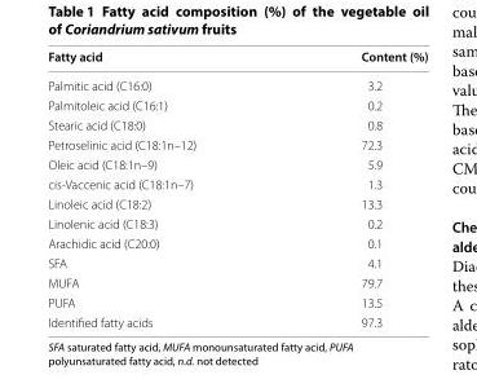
<table><thead><tr><td>Fatty acid</td><td>Content (%)</td></tr></thead><tbody><tr><td>Palmitic acid (C16:0)</td><td>3.2</td></tr><tr><td>Palmitoleic acid (C16:1)</td><td>0.2</td></tr><tr><td>Stearic acid (C18:0)</td><td>0.8</td></tr><tr><td>Petroselinic acid (C18:1n–12)</td><td>72.3</td></tr><tr><td>Oleic acid (C18:1n–9)</td><td>5.9</td></tr><tr><td>cis-Vaccenic acid (C18:1n–7)</td><td>1.3</td></tr><tr><td>Linoleic acid (C18:2)</td><td>13.3</td></tr><tr><td>Linolenic acid (C18:3)</td><td>0.2</td></tr><tr><td>Arachidic acid (C20:0)</td><td>0.1</td></tr><tr><td>SFA</td><td>4.1</td></tr><tr><td>MUFA</td><td>79.7</td></tr><tr><td>PUFA</td><td>13.5</td></tr><tr><td>Identified fatty acids</td><td>97.3</td></tr></tbody></table>